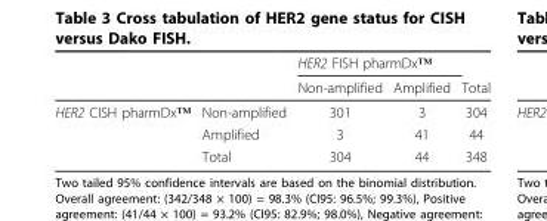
<table><thead><tr><td rowspan="2"></td><td rowspan="2"></td><td colspan="2">HER2 FISH pharmDx™</td><td rowspan="2">Total</td></tr><tr><td>Non-amplified</td><td>Amplified</td></tr></thead><tbody><tr><td rowspan="3">HER2 CISH pharmDx™</td><td>Non-amplified</td><td>301</td><td>3</td><td>304</td></tr><tr><td>Amplified</td><td>3</td><td>41</td><td>44</td></tr><tr><td>Total</td><td>304</td><td>44</td><td>348</td></tr></tbody></table>